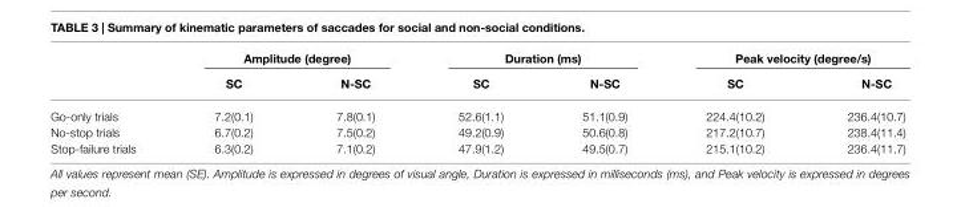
<table><thead><tr><td rowspan="2"></td><td colspan="2">Amplitude (degree)</td><td colspan="2">Duration (ms)</td><td colspan="2">Peak velocity (degree/s)</td></tr><tr><td>SC</td><td>N-SC</td><td>SC</td><td>N-SC</td><td>SC</td><td>N-SC</td></tr></thead><tbody><tr><td>Go-only trials</td><td>7.2(0.1)</td><td>7.8(0.1)</td><td>52.6(1.1)</td><td>51.1(0.9)</td><td>224.4(10.2)</td><td>236.4(10.7)</td></tr><tr><td>No-stop trials</td><td>6.7(0.2)</td><td>7.5(0.2)</td><td>49.2(0.9)</td><td>50.6(0.8)</td><td>217.2(10.7)</td><td>238.4(11.4)</td></tr><tr><td>Stop-failure trials</td><td>6.3(0.2)</td><td>7.1(0.2)</td><td>47.9(1.2)</td><td>49.5(0.7)</td><td>215.1(10.2)</td><td>236.4(11.7)</td></tr></tbody></table>